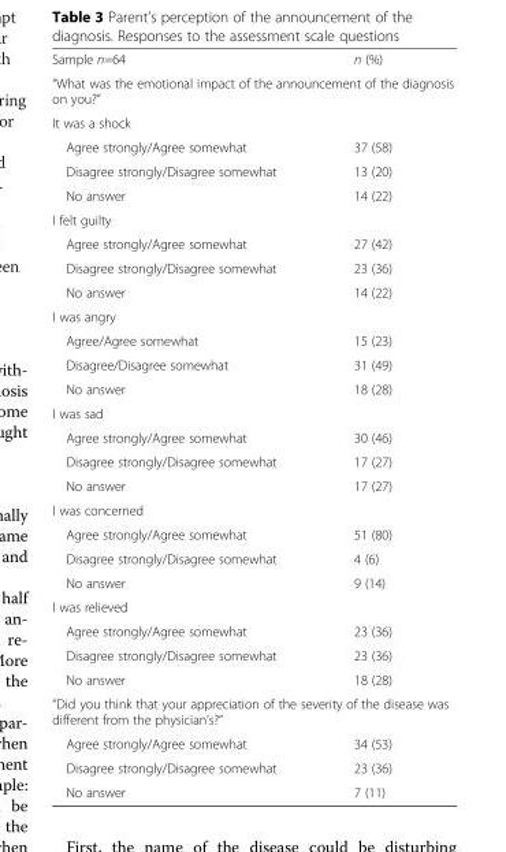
<table><tbody><tr><td>Sample n=64</td><td>n (%)</td></tr><tr><td colspan="2">“What was the emotional impact of the announcement of the diagnosis on you?”</td></tr><tr><td colspan="2">It was a shock</td></tr><tr><td>Agree strongly/Agree somewhat</td><td>37 (58)</td></tr><tr><td>Disagree strongly/Disagree somewhat</td><td>13 (20)</td></tr><tr><td>No answer</td><td>14 (22)</td></tr><tr><td colspan="2">I felt guilty</td></tr><tr><td>Agree strongly/Agree somewhat</td><td>27 (42)</td></tr><tr><td>Disagree strongly/Disagree somewhat</td><td>23 (36)</td></tr><tr><td>No answer</td><td>14 (22)</td></tr><tr><td colspan="2">I was angry</td></tr><tr><td>Agree/Agree somewhat</td><td>15 (23)</td></tr><tr><td>Disagree/Disagree somewhat</td><td>31 (49)</td></tr><tr><td>No answer</td><td>18 (28)</td></tr><tr><td colspan="2">I was sad</td></tr><tr><td>Agree strongly/Agree somewhat</td><td>30 (46)</td></tr><tr><td>Disagree strongly/Disagree somewhat</td><td>17 (27)</td></tr><tr><td>No answer</td><td>17 (27)</td></tr><tr><td colspan="2">I was concerned</td></tr><tr><td>Agree strongly/Agree somewhat</td><td>51 (80)</td></tr><tr><td>Disagree strongly/Disagree somewhat</td><td>4 (6)</td></tr><tr><td>No answer</td><td>9 (14)</td></tr><tr><td colspan="2">I was relieved</td></tr><tr><td>Agree strongly/Agree somewhat</td><td>23 (36)</td></tr><tr><td>Disagree strongly/Disagree somewhat</td><td>23 (36)</td></tr><tr><td>No answer</td><td>18 (28)</td></tr><tr><td colspan="2">“Did you think that your appreciation of the severity of the disease was different from the physician’s?”</td></tr><tr><td>Agree strongly/Agree somewhat</td><td>34 (53)</td></tr><tr><td>Disagree strongly/Disagree somewhat</td><td>23 (36)</td></tr><tr><td>No answer</td><td>7 (11)</td></tr></tbody></table>